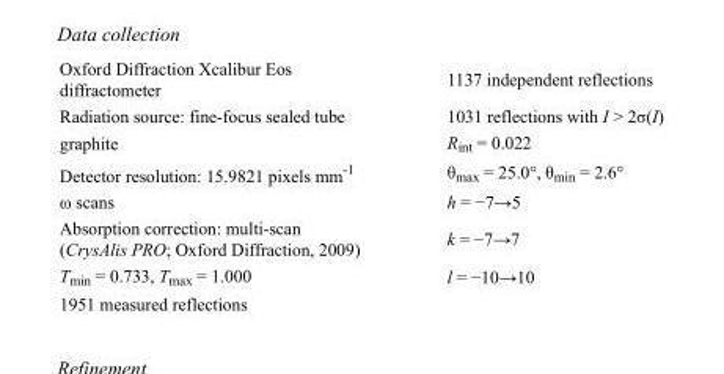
<table><tbody><tr><td>Oxford Diffraction Xcalibur Eos diffractometer</td><td>1137 independent reflections</td></tr><tr><td>Radiation source: fine-focus sealed tube</td><td>1031 reflections with I &gt; 2σ(I)</td></tr><tr><td>graphite</td><td>R<sub>int</sub> = 0.022</td></tr><tr><td>Detector resolution: 15.9821 pixels mm<sup>-1</sup></td><td>θ<sub>max</sub> = 25.0°, θ<sub>min</sub> = 2.6°</td></tr><tr><td>ω scans</td><td>h = −7→5</td></tr><tr><td>Absorption correction: multi-scan (CrysAlis PRO; Oxford Diffraction, 2009)</td><td>k = −7→7</td></tr><tr><td>T<sub>min</sub> = 0.733, T<sub>max</sub> = 1.000</td><td>l = −10→10</td></tr><tr><td>1951 measured reflections</td><td></td></tr></tbody></table>